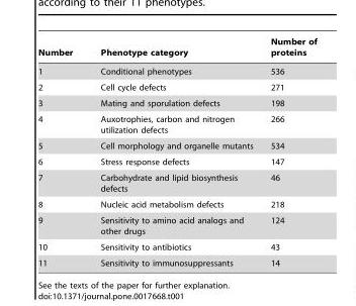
<table><thead><tr><td>Number</td><td>Phenotype category</td><td>Number of proteins</td></tr></thead><tbody><tr><td>1</td><td>Conditional phenotypes</td><td>536</td></tr><tr><td>2</td><td>Cell cycle defects</td><td>271</td></tr><tr><td>3</td><td>Mating and sporulation defects</td><td>198</td></tr><tr><td>4</td><td>Auxotrophies, carbon and nitrogen utilization defects</td><td>266</td></tr><tr><td>5</td><td>Cell morphology and organelle mutants</td><td>534</td></tr><tr><td>6</td><td>Stress response defects</td><td>147</td></tr><tr><td>7</td><td>Carbohydrate and lipid biosynthesis defects</td><td>46</td></tr><tr><td>8</td><td>Nucleic acid metabolism defects</td><td>218</td></tr><tr><td>9</td><td>Sensitivity to amino acid analogs and other drugs</td><td>124</td></tr><tr><td>10</td><td>Sensitivity to antibiotics</td><td>43</td></tr><tr><td>11</td><td>Sensitivity to immunosuppressants</td><td>14</td></tr></tbody></table>